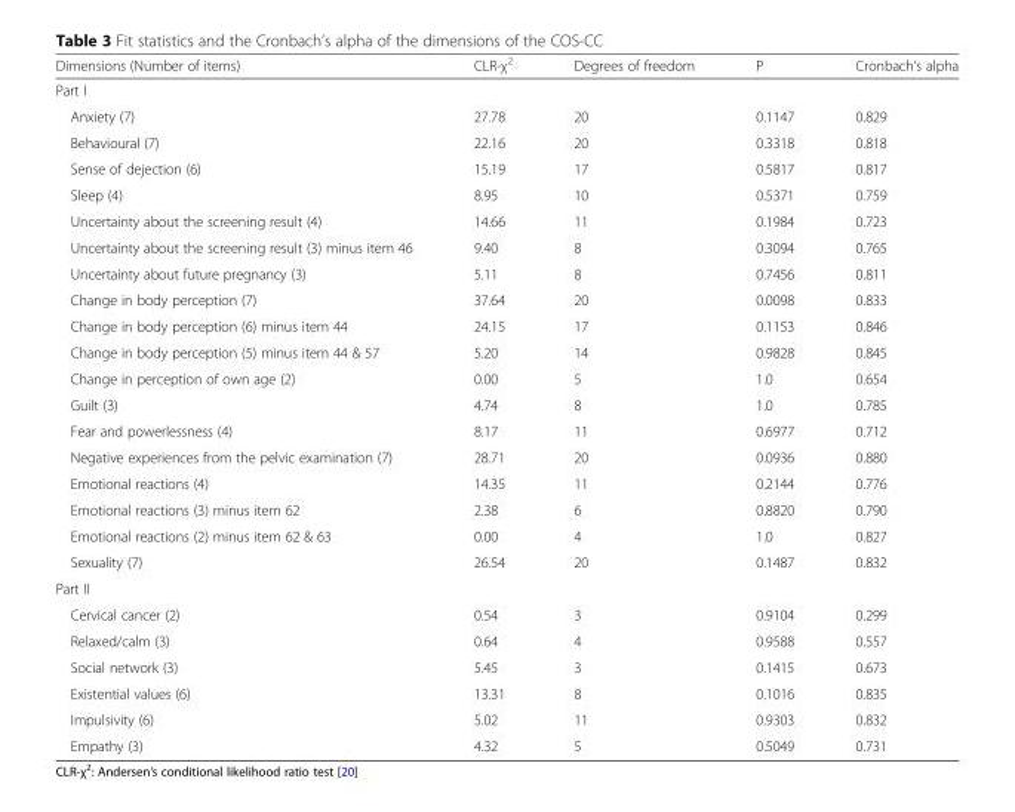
<table><thead><tr><td>Dimensions (Number of items)</td><td>CLR-χ<sup>2</sup></td><td>Degrees of freedom</td><td>P</td><td>Cronbach’s alpha</td></tr></thead><tbody><tr><td colspan="5">Part I</td></tr><tr><td>Anxiety (7)</td><td>27.78</td><td>20</td><td>0.1147</td><td>0.829</td></tr><tr><td>Behavioural (7)</td><td>22.16</td><td>20</td><td>0.3318</td><td>0.818</td></tr><tr><td>Sense of dejection (6)</td><td>15.19</td><td>17</td><td>0.5817</td><td>0.817</td></tr><tr><td>Sleep (4)</td><td>8.95</td><td>10</td><td>0.5371</td><td>0.759</td></tr><tr><td>Uncertainty about the screening result (4)</td><td>14.66</td><td>11</td><td>0.1984</td><td>0.723</td></tr><tr><td>Uncertainty about the screening result (3) minus item 46</td><td>9.40</td><td>8</td><td>0.3094</td><td>0.765</td></tr><tr><td>Uncertainty about future pregnancy (3)</td><td>5.11</td><td>8</td><td>0.7456</td><td>0.811</td></tr><tr><td>Change in body perception (7)</td><td>37.64</td><td>20</td><td>0.0098</td><td>0.833</td></tr><tr><td>Change in body perception (6) minus item 44</td><td>24.15</td><td>17</td><td>0.1153</td><td>0.846</td></tr><tr><td>Change in body perception (5) minus item 44 &amp; 57</td><td>5.20</td><td>14</td><td>0.9828</td><td>0.845</td></tr><tr><td>Change in perception of own age (2)</td><td>0.00</td><td>5</td><td>1.0</td><td>0.654</td></tr><tr><td>Guilt (3)</td><td>4.74</td><td>8</td><td>1.0</td><td>0.785</td></tr><tr><td>Fear and powerlessness (4)</td><td>8.17</td><td>11</td><td>0.6977</td><td>0.712</td></tr><tr><td>Negative experiences from the pelvic examination (7)</td><td>28.71</td><td>20</td><td>0.0936</td><td>0.880</td></tr><tr><td>Emotional reactions (4)</td><td>14.35</td><td>11</td><td>0.2144</td><td>0.776</td></tr><tr><td>Emotional reactions (3) minus item 62</td><td>2.38</td><td>6</td><td>0.8820</td><td>0.790</td></tr><tr><td>Emotional reactions (2) minus item 62 &amp; 63</td><td>0.00</td><td>4</td><td>1.0</td><td>0.827</td></tr><tr><td>Sexuality (7)</td><td>26.54</td><td>20</td><td>0.1487</td><td>0.832</td></tr><tr><td colspan="5">Part II</td></tr><tr><td>Cervical cancer (2)</td><td>0.54</td><td>3</td><td>0.9104</td><td>0.299</td></tr><tr><td>Relaxed/calm (3)</td><td>0.64</td><td>4</td><td>0.9588</td><td>0.557</td></tr><tr><td>Social network (3)</td><td>5.45</td><td>3</td><td>0.1415</td><td>0.673</td></tr><tr><td>Existential values (6)</td><td>13.31</td><td>8</td><td>0.1016</td><td>0.835</td></tr><tr><td>Impulsivity (6)</td><td>5.02</td><td>11</td><td>0.9303</td><td>0.832</td></tr><tr><td>Empathy (3)</td><td>4.32</td><td>5</td><td>0.5049</td><td>0.731</td></tr></tbody></table>